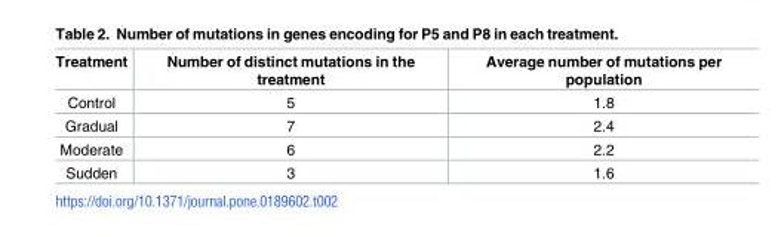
<table><thead><tr><td>Treatment</td><td>Number of distinct mutations in the treatment</td><td>Average number of mutations per population</td></tr></thead><tbody><tr><td>Control</td><td>5</td><td>1.8</td></tr><tr><td>Gradual</td><td>7</td><td>2.4</td></tr><tr><td>Moderate</td><td>6</td><td>2.2</td></tr><tr><td>Sudden</td><td>3</td><td>1.6</td></tr></tbody></table>